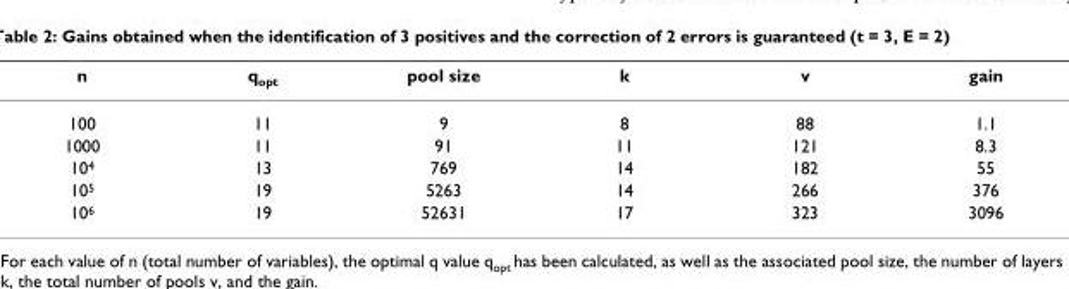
<table><thead><tr><td>n</td><td>qopt</td><td>pool size</td><td>k</td><td>v</td><td>gain</td></tr></thead><tbody><tr><td>100</td><td>11</td><td>9</td><td>8</td><td>88</td><td>1.1</td></tr><tr><td>1000</td><td>11</td><td>91</td><td>11</td><td>121</td><td>8.3</td></tr><tr><td>104</td><td>13</td><td>769</td><td>14</td><td>182</td><td>55</td></tr><tr><td>105</td><td>19</td><td>5263</td><td>14</td><td>266</td><td>376</td></tr><tr><td>106</td><td>19</td><td>52631</td><td>17</td><td>323</td><td>3096</td></tr></tbody></table>